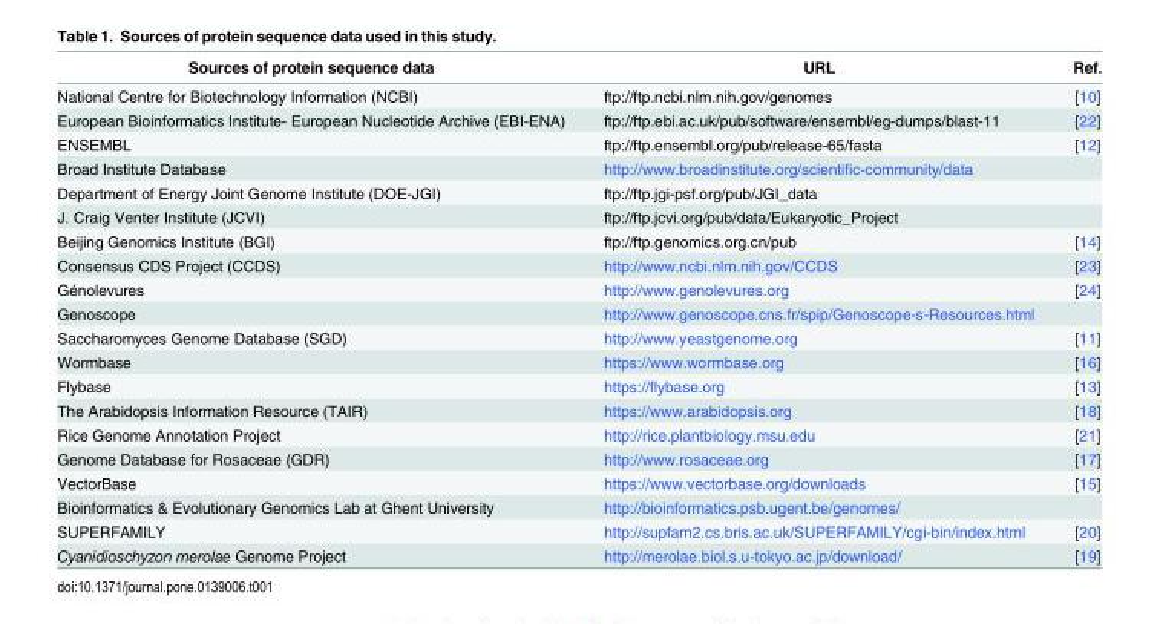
<table><thead><tr><td>Sources of protein sequence data</td><td>URL</td><td>Ref.</td></tr></thead><tbody><tr><td>National Centre for Biotechnology Information (NCBI)</td><td>ftp://ftp.ncbi.nlm.nih.gov/genomes</td><td>[10]</td></tr><tr><td>European Bioinformatics Institute- European Nucleotide Archive (EBI-ENA)</td><td>ftp://ftp.ebi.ac.uk/pub/software/ensembl/eg-dumps/blast-11</td><td>[22]</td></tr><tr><td>ENSEMBL</td><td>ftp://ftp.ensembl.org/pub/release-65/fasta</td><td>[12]</td></tr><tr><td>Broad Institute Database</td><td>http://www.broadinstitute.org/scientific-community/data</td><td></td></tr><tr><td>Department of Energy Joint Genome Institute (DOE-JGI)</td><td>ftp://ftp.jgi-psf.org/pub/JGI_data</td><td></td></tr><tr><td>J. Craig Venter Institute (JCVI)</td><td>ftp://ftp.jcvi.org/pub/data/Eukaryotic_Project</td><td></td></tr><tr><td>Beijing Genomics Institute (BGI)</td><td>ftp://ftp.genomics.org.cn/pub</td><td>[14]</td></tr><tr><td>Consensus CDS Project (CCDS)</td><td>http://www.ncbi.nlm.nih.gov/CCDS</td><td>[23]</td></tr><tr><td>Génolevures</td><td>http://www.genolevures.org</td><td>[24]</td></tr><tr><td>Genoscope</td><td>http://www.genoscope.cns.fr/spip/Genoscope-s-Resources.html</td><td></td></tr><tr><td>Saccharomyces Genome Database (SGD)</td><td>http://www.yeastgenome.org</td><td>[11]</td></tr><tr><td>Wormbase</td><td>https://www.wormbase.org</td><td>[16]</td></tr><tr><td>Flybase</td><td>https://flybase.org</td><td>[13]</td></tr><tr><td>The Arabidopsis Information Resource (TAIR)</td><td>https://www.arabidopsis.org</td><td>[18]</td></tr><tr><td>Rice Genome Annotation Project</td><td>http://rice.plantbiology.msu.edu</td><td>[21]</td></tr><tr><td>Genome Database for Rosaceae (GDR)</td><td>http://www.rosaceae.org</td><td>[17]</td></tr><tr><td>VectorBase</td><td>https://www.vectorbase.org/downloads</td><td>[15]</td></tr><tr><td>Bioinformatics &amp; Evolutionary Genomics Lab at Ghent University</td><td>http://bioinformatics.psb.ugent.be/genomes/</td><td></td></tr><tr><td>SUPERFAMILY</td><td>http://supfam2.cs.bris.ac.uk/SUPERFAMILY/cgi-bin/index.html</td><td>[20]</td></tr><tr><td>Cyanidioschyzon merolae Genome Project</td><td>http://merolae.biol.s.u-tokyo.ac.jp/download/</td><td>[19]</td></tr></tbody></table>